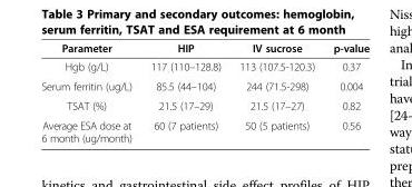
<table><thead><tr><td>Parameter</td><td>HIP</td><td>IV sucrose</td><td>p-value</td></tr></thead><tbody><tr><td>Hgb (g/L)</td><td>117 (110–128.8)</td><td>113 (107.5-120.3)</td><td>0.37</td></tr><tr><td>Serum ferritin (ug/L)</td><td>85.5 (44–104)</td><td>244 (71.5-298)</td><td>0.004</td></tr><tr><td>TSAT (%)</td><td>21.5 (17–29)</td><td>21.5 (17–27)</td><td>0.82</td></tr><tr><td>Average ESA dose at 6 month (ug/month)</td><td>60 (7 patients)</td><td>50 (5 patients)</td><td>0.56</td></tr></tbody></table>